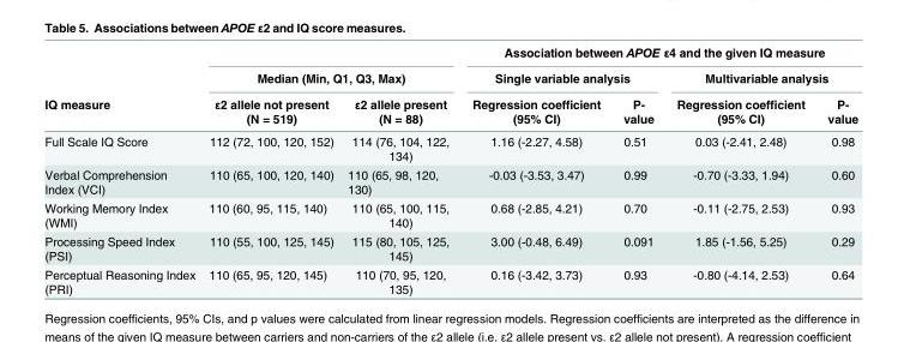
<table><thead><tr><td rowspan="3">IQ measure</td><td></td><td></td><td colspan="4">Association between APOE ε4 and the given IQ measure</td></tr><tr><td colspan="2">Median (Min, Q1, Q3, Max)</td><td colspan="2">Single variable analysis</td><td colspan="2">Multivariable analysis</td></tr><tr><td>ε2 allele not present (N = 519)</td><td>ε2 allele present (N = 88)</td><td>Regression coefficient (95% CI)</td><td>P- value</td><td>Regression coefficient (95% CI)</td><td>P- value</td></tr></thead><tbody><tr><td>Full Scale IQ Score</td><td>112 (72, 100, 120, 152)</td><td>114 (76, 104, 122, 134)</td><td>1.16 (-2.27, 4.58)</td><td>0.51</td><td>0.03 (-2.41, 2.48)</td><td>0.98</td></tr><tr><td>Verbal Comprehension Index (VCI)</td><td>110 (65, 100, 120, 140)</td><td>110 (65, 98, 120, 130)</td><td>-0.03 (-3.53, 3.47)</td><td>0.99</td><td>-0.70 (-3.33, 1.94)</td><td>0.60</td></tr><tr><td>Working Memory Index (WMI)</td><td>110 (60, 95, 115, 140)</td><td>110 (65, 100, 115, 140)</td><td>0.68 (-2.85, 4.21)</td><td>0.70</td><td>-0.11 (-2.75, 2.53)</td><td>0.93</td></tr><tr><td>Processing Speed Index (PSI)</td><td>110 (55, 100, 125, 145)</td><td>115 (80, 105, 125, 145)</td><td>3.00 (-0.48, 6.49)</td><td>0.091</td><td>1.85 (-1.56, 5.25)</td><td>0.29</td></tr><tr><td>Perceptual Reasoning Index (PRI)</td><td>110 (65, 95, 120, 145)</td><td>110 (70, 95, 120, 135)</td><td>0.16 (-3.42, 3.73)</td><td>0.93</td><td>-0.80 (-4.14, 2.53)</td><td>0.64</td></tr></tbody></table>